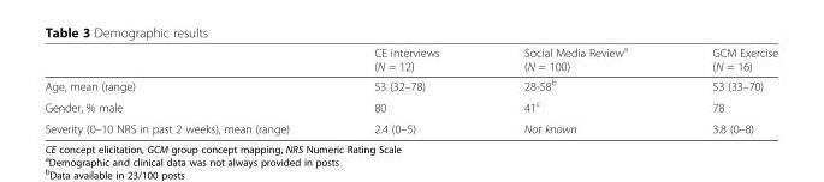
<table><thead><tr><td></td><td>CE interviews (N = 12)</td><td>Social Media Review<sup>a</sup> (N = 100)</td><td>GCM Exercise (N = 16)</td></tr></thead><tbody><tr><td>Age, mean (range)</td><td>53 (32–78)</td><td>28-58<sup>b</sup></td><td>53 (33–70)</td></tr><tr><td>Gender, % male</td><td>80</td><td>41<sup>c</sup></td><td>78</td></tr><tr><td>Severity (0–10 NRS in past 2 weeks), mean (range)</td><td>2.4 (0–5)</td><td>Not known</td><td>3.8 (0–8)</td></tr></tbody></table>